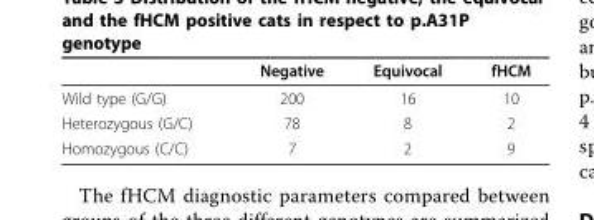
<table><thead><tr><td></td><td>Negative</td><td>Equivocal</td><td>fHCM</td></tr></thead><tbody><tr><td>Wild type (G/G)</td><td>200</td><td>16</td><td>10</td></tr><tr><td>Heterozygous (G/C)</td><td>78</td><td>8</td><td>2</td></tr><tr><td>Homozygous (C/C)</td><td>7</td><td>2</td><td>9</td></tr></tbody></table>